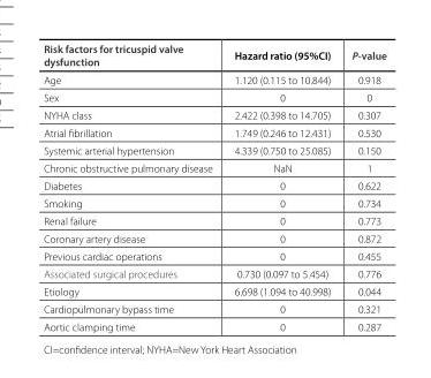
<table><thead><tr><td>Risk factors for tricuspid valve dysfunction</td><td>Hazard ratio (95%CI)</td><td>P-value</td></tr></thead><tbody><tr><td>Age</td><td>1.120 (0.115 to 10.844)</td><td>0.918</td></tr><tr><td>Sex</td><td>0</td><td>0</td></tr><tr><td>NYHA class</td><td>2.422 (0.398 to 14.705)</td><td>0.307</td></tr><tr><td>Atrial fibrillation</td><td>1.749 (0.246 to 12.431)</td><td>0.530</td></tr><tr><td>Systemic arterial hypertension</td><td>4.339 (0.750 to 25.085)</td><td>0.150</td></tr><tr><td>Chronic obstructive pulmonary disease</td><td>NaN</td><td>1</td></tr><tr><td>Diabetes</td><td>0</td><td>0.622</td></tr><tr><td>Smoking</td><td>0</td><td>0.734</td></tr><tr><td>Renal failure</td><td>0</td><td>0.773</td></tr><tr><td>Coronary artery disease</td><td>0</td><td>0.872</td></tr><tr><td>Previous cardiac operations</td><td>0</td><td>0.455</td></tr><tr><td>Associated surgical procedures</td><td>0.730 (0.097 to 5.454)</td><td>0.776</td></tr><tr><td>Etiology</td><td>6.698 (1.094 to 40.998)</td><td>0.044</td></tr><tr><td>Cardiopulmonary bypass time</td><td>0</td><td>0.321</td></tr><tr><td>Aortic clamping time</td><td>0</td><td>0.287</td></tr></tbody></table>